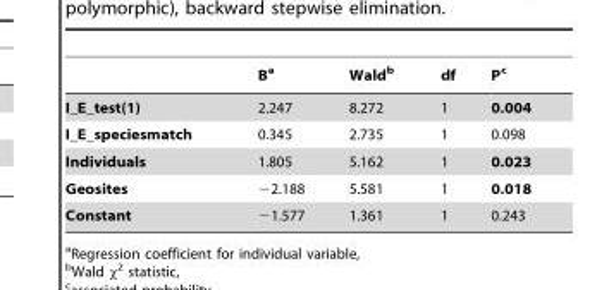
<table><thead><tr><td></td><td>B<sup>a</sup></td><td>Wald<sup>b</sup></td><td>df</td><td>P<sup>c</sup></td></tr></thead><tbody><tr><td>I_E_test(1)</td><td>2.247</td><td>8.272</td><td>1</td><td>0.004</td></tr><tr><td>I_E_speciesmatch</td><td>0.345</td><td>2.735</td><td>1</td><td>0.098</td></tr><tr><td>Individuals</td><td>1.805</td><td>5.162</td><td>1</td><td>0.023</td></tr><tr><td>Geosites</td><td>−2.188</td><td>5.581</td><td>1</td><td>0.018</td></tr><tr><td>Constant</td><td>−1.577</td><td>1.361</td><td>1</td><td>0.243</td></tr></tbody></table>